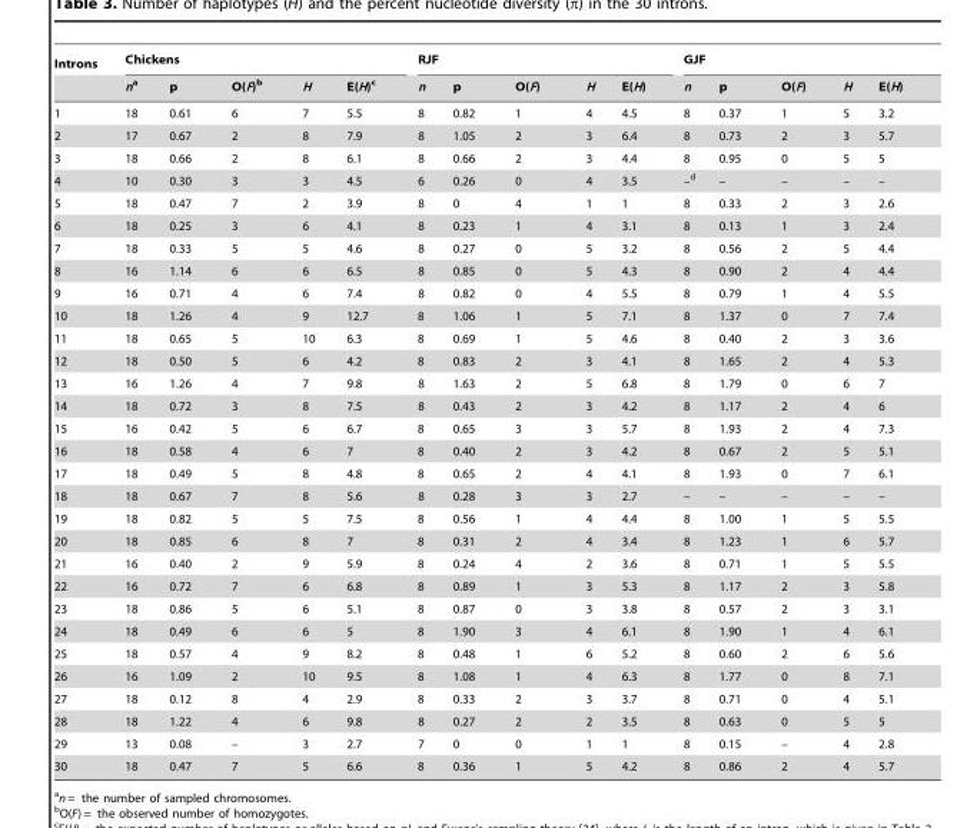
<table><thead><tr><td rowspan="2">Introns</td><td colspan="5">Chickens</td><td colspan="5">RJF</td><td colspan="5">GJF</td></tr><tr><td>na</td><td>p</td><td>O(F)<sup>b</sup></td><td>H</td><td>E(H)<sup>c</sup></td><td>n</td><td>p</td><td>O(F)</td><td>H</td><td>E(H)</td><td>n</td><td>p</td><td>O(F)</td><td>H</td><td>E(H)</td></tr></thead><tbody><tr><td>1</td><td>18</td><td>0.61</td><td>6</td><td>7</td><td>5.5</td><td>8</td><td>0.82</td><td>1</td><td>4</td><td>4.5</td><td>8</td><td>0.37</td><td>1</td><td>5</td><td>3.2</td></tr><tr><td>2</td><td>17</td><td>0.67</td><td>2</td><td>8</td><td>7.9</td><td>8</td><td>1.05</td><td>2</td><td>3</td><td>6.4</td><td>8</td><td>0.73</td><td>2</td><td>3</td><td>5.7</td></tr><tr><td>3</td><td>18</td><td>0.66</td><td>2</td><td>8</td><td>6.1</td><td>8</td><td>0.66</td><td>2</td><td>3</td><td>4.4</td><td>8</td><td>0.95</td><td>0</td><td>5</td><td>5</td></tr><tr><td>4</td><td>10</td><td>0.30</td><td>3</td><td>3</td><td>4.5</td><td>6</td><td>0.26</td><td>0</td><td>4</td><td>3.5</td><td>–d</td><td>–</td><td>–</td><td>–</td><td>–</td></tr><tr><td>5</td><td>18</td><td>0.47</td><td>7</td><td>2</td><td>3.9</td><td>8</td><td>0</td><td>4</td><td>1</td><td>1</td><td>8</td><td>0.33</td><td>2</td><td>3</td><td>2.6</td></tr><tr><td>6</td><td>18</td><td>0.25</td><td>3</td><td>6</td><td>4.1</td><td>8</td><td>0.23</td><td>1</td><td>4</td><td>3.1</td><td>8</td><td>0.13</td><td>1</td><td>3</td><td>2.4</td></tr><tr><td>7</td><td>18</td><td>0.33</td><td>5</td><td>5</td><td>4.6</td><td>8</td><td>0.27</td><td>0</td><td>5</td><td>3.2</td><td>8</td><td>0.56</td><td>2</td><td>5</td><td>4.4</td></tr><tr><td>8</td><td>16</td><td>1.14</td><td>6</td><td>6</td><td>6.5</td><td>8</td><td>0.85</td><td>0</td><td>5</td><td>4.3</td><td>8</td><td>0.90</td><td>2</td><td>4</td><td>4.4</td></tr><tr><td>9</td><td>16</td><td>0.71</td><td>4</td><td>6</td><td>7.4</td><td>8</td><td>0.82</td><td>0</td><td>4</td><td>5.5</td><td>8</td><td>0.79</td><td>1</td><td>4</td><td>5.5</td></tr><tr><td>10</td><td>18</td><td>1.26</td><td>4</td><td>9</td><td>12.7</td><td>8</td><td>1.06</td><td>1</td><td>5</td><td>7.1</td><td>8</td><td>1.37</td><td>0</td><td>7</td><td>7.4</td></tr><tr><td>11</td><td>18</td><td>0.65</td><td>5</td><td>10</td><td>6.3</td><td>8</td><td>0.69</td><td>1</td><td>5</td><td>4.6</td><td>8</td><td>0.40</td><td>2</td><td>3</td><td>3.6</td></tr><tr><td>12</td><td>18</td><td>0.50</td><td>5</td><td>6</td><td>4.2</td><td>8</td><td>0.83</td><td>2</td><td>3</td><td>4.1</td><td>8</td><td>1.65</td><td>2</td><td>4</td><td>5.3</td></tr><tr><td>13</td><td>16</td><td>1.26</td><td>4</td><td>7</td><td>9.8</td><td>8</td><td>1.63</td><td>2</td><td>5</td><td>6.8</td><td>8</td><td>1.79</td><td>0</td><td>6</td><td>7</td></tr><tr><td>14</td><td>18</td><td>0.72</td><td>3</td><td>8</td><td>7.5</td><td>8</td><td>0.43</td><td>2</td><td>3</td><td>4.2</td><td>8</td><td>1.17</td><td>2</td><td>4</td><td>6</td></tr><tr><td>15</td><td>16</td><td>0.42</td><td>5</td><td>6</td><td>6.7</td><td>8</td><td>0.65</td><td>3</td><td>3</td><td>5.7</td><td>8</td><td>1.93</td><td>2</td><td>4</td><td>7.3</td></tr><tr><td>16</td><td>18</td><td>0.58</td><td>4</td><td>6</td><td>7</td><td>8</td><td>0.40</td><td>2</td><td>3</td><td>4.2</td><td>8</td><td>0.67</td><td>2</td><td>5</td><td>5.1</td></tr><tr><td>17</td><td>18</td><td>0.49</td><td>5</td><td>8</td><td>4.8</td><td>8</td><td>0.65</td><td>2</td><td>4</td><td>4.1</td><td>8</td><td>1.93</td><td>0</td><td>7</td><td>6.1</td></tr><tr><td>18</td><td>18</td><td>0.67</td><td>7</td><td>8</td><td>5.6</td><td>8</td><td>0.28</td><td>3</td><td>3</td><td>2.7</td><td>–</td><td>–</td><td>–</td><td>–</td><td>–</td></tr><tr><td>19</td><td>18</td><td>0.82</td><td>5</td><td>5</td><td>7.5</td><td>8</td><td>0.56</td><td>1</td><td>4</td><td>4.4</td><td>8</td><td>1.00</td><td>1</td><td>5</td><td>5.5</td></tr><tr><td>20</td><td>18</td><td>0.85</td><td>6</td><td>8</td><td>7</td><td>8</td><td>0.31</td><td>2</td><td>4</td><td>3.4</td><td>8</td><td>1.23</td><td>1</td><td>6</td><td>5.7</td></tr><tr><td>21</td><td>16</td><td>0.40</td><td>2</td><td>9</td><td>5.9</td><td>8</td><td>0.24</td><td>4</td><td>2</td><td>3.6</td><td>8</td><td>0.71</td><td>1</td><td>5</td><td>5.5</td></tr><tr><td>22</td><td>16</td><td>0.72</td><td>7</td><td>6</td><td>6.8</td><td>8</td><td>0.89</td><td>1</td><td>3</td><td>5.3</td><td>8</td><td>1.17</td><td>2</td><td>3</td><td>5.8</td></tr><tr><td>23</td><td>18</td><td>0.86</td><td>5</td><td>6</td><td>5.1</td><td>8</td><td>0.87</td><td>0</td><td>3</td><td>3.8</td><td>8</td><td>0.57</td><td>2</td><td>3</td><td>3.1</td></tr><tr><td>24</td><td>18</td><td>0.49</td><td>6</td><td>6</td><td>5</td><td>8</td><td>1.90</td><td>3</td><td>4</td><td>6.1</td><td>8</td><td>1.90</td><td>1</td><td>4</td><td>6.1</td></tr><tr><td>25</td><td>18</td><td>0.57</td><td>4</td><td>9</td><td>8.2</td><td>8</td><td>0.48</td><td>1</td><td>6</td><td>5.2</td><td>8</td><td>0.60</td><td>2</td><td>6</td><td>5.6</td></tr><tr><td>26</td><td>16</td><td>1.09</td><td>2</td><td>10</td><td>9.5</td><td>8</td><td>1.08</td><td>1</td><td>4</td><td>6.3</td><td>8</td><td>1.77</td><td>0</td><td>8</td><td>7.1</td></tr><tr><td>27</td><td>18</td><td>0.12</td><td>8</td><td>4</td><td>2.9</td><td>8</td><td>0.33</td><td>2</td><td>3</td><td>3.7</td><td>8</td><td>0.71</td><td>0</td><td>4</td><td>5.1</td></tr><tr><td>28</td><td>18</td><td>1.22</td><td>4</td><td>6</td><td>9.8</td><td>8</td><td>0.27</td><td>2</td><td>2</td><td>3.5</td><td>8</td><td>0.63</td><td>0</td><td>5</td><td>5</td></tr><tr><td>29</td><td>13</td><td>0.08</td><td>–</td><td>3</td><td>2.7</td><td>7</td><td>0</td><td>0</td><td>1</td><td>1</td><td>8</td><td>0.15</td><td>–</td><td>4</td><td>2.8</td></tr><tr><td>30</td><td>18</td><td>0.47</td><td>7</td><td>5</td><td>6.6</td><td>8</td><td>0.36</td><td>1</td><td>5</td><td>4.2</td><td>8</td><td>0.86</td><td>2</td><td>4</td><td>5.7</td></tr></tbody></table>